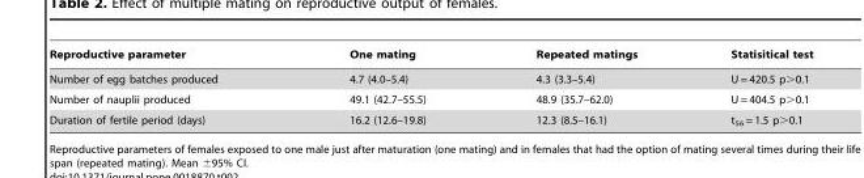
<table><thead><tr><td>Reproductive parameter</td><td>One mating</td><td>Repeated matings</td><td>Statisitical test</td></tr></thead><tbody><tr><td>Number of egg batches produced</td><td>4.7 (4.0–5.4)</td><td>4.3 (3.3–5.4)</td><td>U = 420.5 p&gt;0.1</td></tr><tr><td>Number of nauplii produced</td><td>49.1 (42.7–55.5)</td><td>48.9 (35.7–62.0)</td><td>U = 404.5 p&gt;0.1</td></tr><tr><td>Duration of fertile period (days)</td><td>16.2 (12.6–19.8)</td><td>12.3 (8.5–16.1)</td><td>t<sub>56</sub> = 1.5 p&gt;0.1</td></tr></tbody></table>